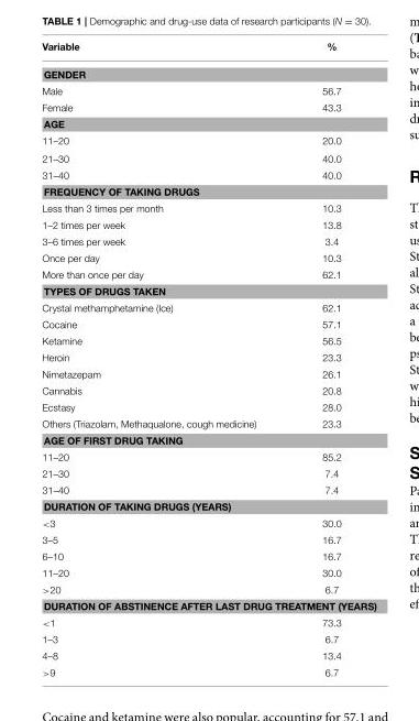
<table><thead><tr><td>Variable</td><td>%</td></tr></thead><tbody><tr><td colspan="2">GENDER</td></tr><tr><td>Male</td><td>56.7</td></tr><tr><td>Female</td><td>43.3</td></tr><tr><td colspan="2">AGE</td></tr><tr><td>11–20</td><td>20.0</td></tr><tr><td>21–30</td><td>40.0</td></tr><tr><td>31–40</td><td>40.0</td></tr><tr><td colspan="2">FREQUENCY OF TAKING DRUGS</td></tr><tr><td>Less than 3 times per month</td><td>10.3</td></tr><tr><td>1–2 times per week</td><td>13.8</td></tr><tr><td>3–6 times per week</td><td>3.4</td></tr><tr><td>Once per day</td><td>10.3</td></tr><tr><td>More than once per day</td><td>62.1</td></tr><tr><td colspan="2">TYPES OF DRUGS TAKEN</td></tr><tr><td>Crystal methamphetamine (Ice)</td><td>62.1</td></tr><tr><td>Cocaine</td><td>57.1</td></tr><tr><td>Ketamine</td><td>56.5</td></tr><tr><td>Heroin</td><td>23.3</td></tr><tr><td>Nimetazepam</td><td>26.1</td></tr><tr><td>Cannabis</td><td>20.8</td></tr><tr><td>Ecstasy</td><td>28.0</td></tr><tr><td>Others (Triazolam, Methaqualone, cough medicine)</td><td>23.3</td></tr><tr><td colspan="2">AGE OF FIRST DRUG TAKING</td></tr><tr><td>11–20</td><td>85.2</td></tr><tr><td>21–30</td><td>7.4</td></tr><tr><td>31–40</td><td>7.4</td></tr><tr><td colspan="2">DURATION OF TAKING DRUGS (YEARS)</td></tr><tr><td>&lt;3</td><td>30.0</td></tr><tr><td>3–5</td><td>16.7</td></tr><tr><td>6–10</td><td>16.7</td></tr><tr><td>11–20</td><td>30.0</td></tr><tr><td>&gt;20</td><td>6.7</td></tr><tr><td colspan="2">DURATION OF ABSTINENCE AFTER LAST DRUG TREATMENT (YEARS)</td></tr><tr><td>&lt;1</td><td>73.3</td></tr><tr><td>1–3</td><td>6.7</td></tr><tr><td>4–8</td><td>13.4</td></tr><tr><td>&gt;9</td><td>6.7</td></tr></tbody></table>